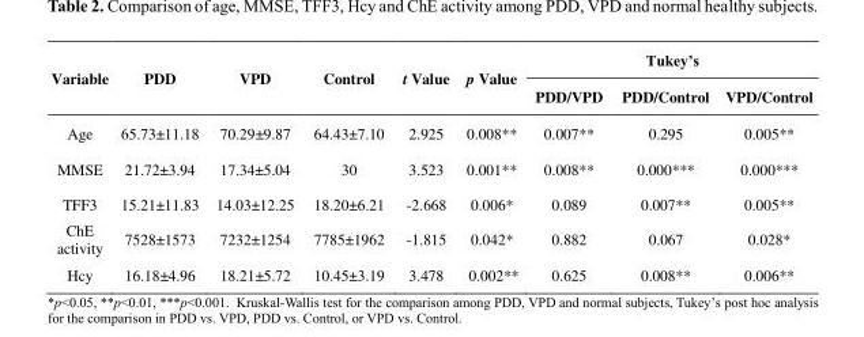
<table><thead><tr><td rowspan="2">Variable</td><td rowspan="2">PDD</td><td rowspan="2">VPD</td><td rowspan="2">Control</td><td rowspan="2">t Value</td><td rowspan="2">p Value</td><td colspan="3">Tukey’s</td></tr><tr><td>PDD/VPD</td><td>PDD/Control</td><td>VPD/Control</td></tr></thead><tbody><tr><td>Age</td><td>65.73±11.18</td><td>70.29±9.87</td><td>64.43±7.10</td><td>2.925</td><td>0.008**</td><td>0.007**</td><td>0.295</td><td>0.005**</td></tr><tr><td>MMSE</td><td>21.72±3.94</td><td>17.34±5.04</td><td>30</td><td>3.523</td><td>0.001**</td><td>0.008**</td><td>0.000***</td><td>0.000***</td></tr><tr><td>TFF3</td><td>15.21±11.83</td><td>14.03±12.25</td><td>18.20±6.21</td><td>-2.668</td><td>0.006*</td><td>0.089</td><td>0.007**</td><td>0.005**</td></tr><tr><td>ChE activity</td><td>7528±1573</td><td>7232±1254</td><td>7785±1962</td><td>-1.815</td><td>0.042*</td><td>0.882</td><td>0.067</td><td>0.028*</td></tr><tr><td>Hcy</td><td>16.18±4.96</td><td>18.21±5.72</td><td>10.45±3.19</td><td>3.478</td><td>0.002**</td><td>0.625</td><td>0.008**</td><td>0.006**</td></tr></tbody></table>